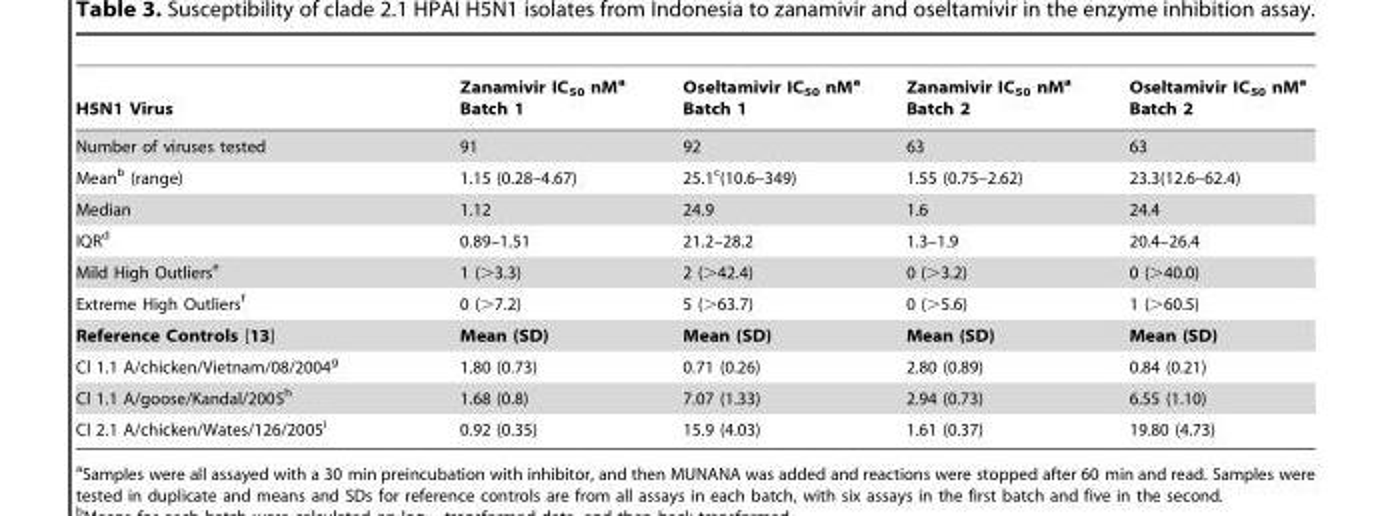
<table><thead><tr><td>H5N1 Virus</td><td>Zanamivir IC<sub>50</sub> nM<sup>a</sup> Batch 1</td><td>Oseltamivir IC<sub>50</sub> nM<sup>a</sup> Batch 1</td><td>Zanamivir IC<sub>50</sub> nM<sup>a</sup> Batch 2</td><td>Oseltamivir IC<sub>50</sub> nM<sup>a</sup> Batch 2</td></tr></thead><tbody><tr><td>Number of viruses tested</td><td>91</td><td>92</td><td>63</td><td>63</td></tr><tr><td>Mean<sup>b</sup> (range)</td><td>1.15 (0.28–4.67)</td><td>25.1<sup>c</sup>(10.6–349)</td><td>1.55 (0.75–2.62)</td><td>23.3(12.6–62.4)</td></tr><tr><td>Median</td><td>1.12</td><td>24.9</td><td>1.6</td><td>24.4</td></tr><tr><td>IQR<sup>d</sup></td><td>0.89–1.51</td><td>21.2–28.2</td><td>1.3–1.9</td><td>20.4–26.4</td></tr><tr><td>Mild High Outliers<sup>e</sup></td><td>1 (&gt;3.3)</td><td>2 (&gt;42.4)</td><td>0 (&gt;3.2)</td><td>0 (&gt;40.0)</td></tr><tr><td>Extreme High Outliers<sup>f</sup></td><td>0 (&gt;7.2)</td><td>5 (&gt;63.7)</td><td>0 (&gt;5.6)</td><td>1 (&gt;60.5)</td></tr><tr><td>Reference Controls [13]</td><td>Mean (SD)</td><td>Mean (SD)</td><td>Mean (SD)</td><td>Mean (SD)</td></tr><tr><td>Cl 1.1 A/chicken/Vietnam/08/2004<sup>g</sup></td><td>1.80 (0.73)</td><td>0.71 (0.26)</td><td>2.80 (0.89)</td><td>0.84 (0.21)</td></tr><tr><td>Cl 1.1 A/goose/Kandal/2005<sup>h</sup></td><td>1.68 (0.8)</td><td>7.07 (1.33)</td><td>2.94 (0.73)</td><td>6.55 (1.10)</td></tr><tr><td>Cl 2.1 A/chicken/Wates/126/2005<sup>i</sup></td><td>0.92 (0.35)</td><td>15.9 (4.03)</td><td>1.61 (0.37)</td><td>19.80 (4.73)</td></tr></tbody></table>